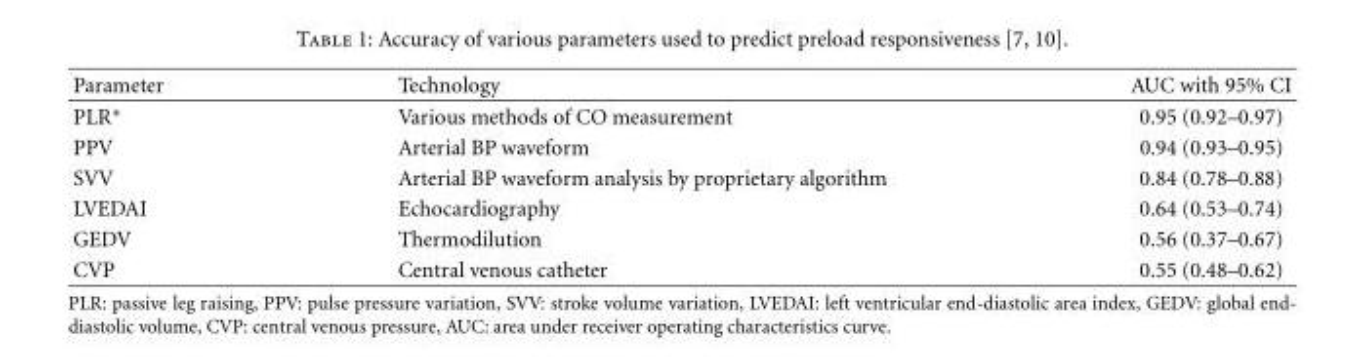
<table><thead><tr><td>Parameter</td><td>Technology</td><td>AUC with 95% CI</td></tr></thead><tbody><tr><td>PLR∗</td><td>Various methods of CO measurement</td><td>0.95 (0.92–0.97)</td></tr><tr><td>PPV</td><td>Arterial BP waveform</td><td>0.94 (0.93–0.95)</td></tr><tr><td>SVV</td><td>Arterial BP waveform analysis by proprietary algorithm</td><td>0.84 (0.78–0.88)</td></tr><tr><td>LVEDAI</td><td>Echocardiography</td><td>0.64 (0.53–0.74)</td></tr><tr><td>GEDV</td><td>Thermodilution</td><td>0.56 (0.37–0.67)</td></tr><tr><td>CVP</td><td>Central venous catheter</td><td>0.55 (0.48–0.62)</td></tr></tbody></table>